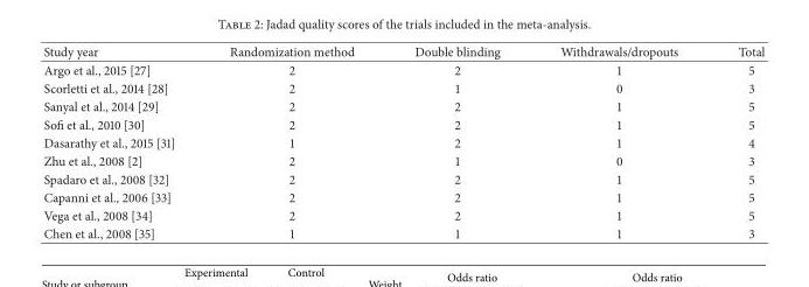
<table><thead><tr><td>Study year</td><td>Randomization method</td><td>Double blinding</td><td>Withdrawals/dropouts</td><td>Total</td></tr></thead><tbody><tr><td>Argo et al., 2015 [27]</td><td>2</td><td>2</td><td>1</td><td>5</td></tr><tr><td>Scorletti et al., 2014 [28]</td><td>2</td><td>1</td><td>0</td><td>3</td></tr><tr><td>Sanyal et al., 2014 [29]</td><td>2</td><td>2</td><td>1</td><td>5</td></tr><tr><td>Sofi et al., 2010 [30]</td><td>2</td><td>2</td><td>1</td><td>5</td></tr><tr><td>Dasarathy et al., 2015 [31]</td><td>1</td><td>2</td><td>1</td><td>4</td></tr><tr><td>Zhu et al., 2008 [2]</td><td>2</td><td>1</td><td>0</td><td>3</td></tr><tr><td>Spadaro et al., 2008 [32]</td><td>2</td><td>2</td><td>1</td><td>5</td></tr><tr><td>Capanni et al., 2006 [33]</td><td>2</td><td>2</td><td>1</td><td>5</td></tr><tr><td>Vega et al., 2008 [34]</td><td>2</td><td>2</td><td>1</td><td>5</td></tr><tr><td>Chen et al., 2008 [35]</td><td>1</td><td>1</td><td>1</td><td>3</td></tr></tbody></table>